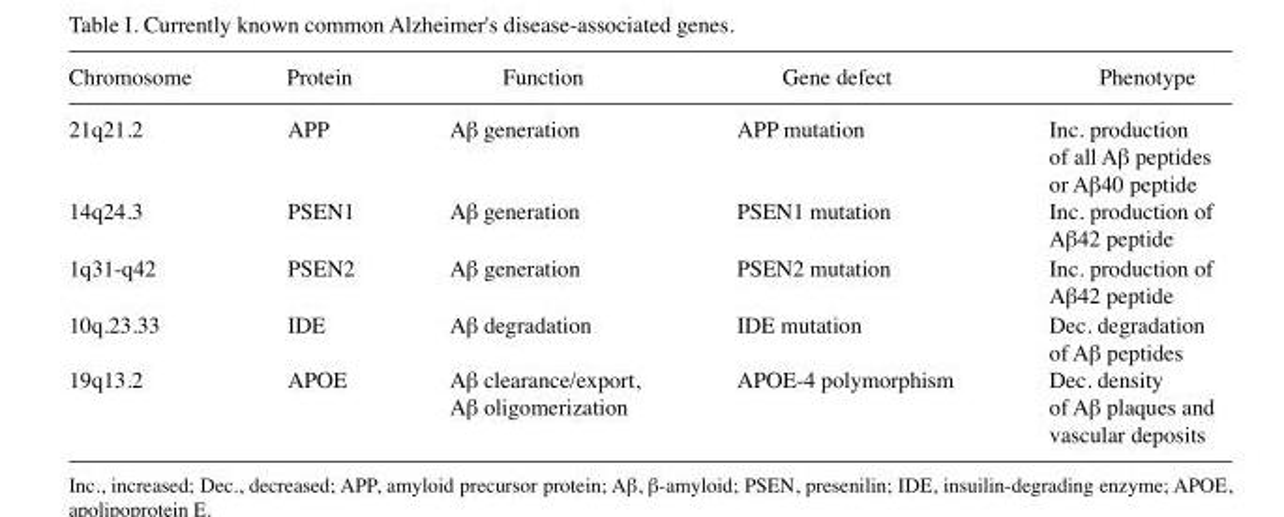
<table><thead><tr><td>Chromosome</td><td>Protein</td><td>Function</td><td>Gene defect</td><td>Phenotype</td></tr></thead><tbody><tr><td>21q21.2</td><td>APP</td><td>Aβ generation</td><td>APP mutation</td><td>Inc. production of all Aβ peptides or Aβ40 peptide</td></tr><tr><td>14q24.3</td><td>PSEN1</td><td>Aβ generation</td><td>PSEN1 mutation</td><td>Inc. production of Aβ42 peptide</td></tr><tr><td>1q31-q42</td><td>PSEN2</td><td>Aβ generation</td><td>PSEN2 mutation</td><td>Inc. production of Aβ42 peptide</td></tr><tr><td>10q.23.33</td><td>IDE</td><td>Aβ degradation</td><td>IDE mutation</td><td>Dec. degradation of Aβ peptides</td></tr><tr><td>19q13.2</td><td>APOE</td><td>Aβ clearance/export, Aβ oligomerization</td><td>APOE-4 polymorphism</td><td>Dec. density of Aβ plaques and vascular deposits</td></tr></tbody></table>